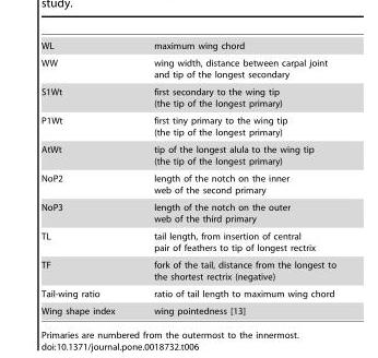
<table><tbody><tr><td>WL</td><td>maximum wing chord</td></tr><tr><td>WW</td><td>wing width, distance between carpal joint and tip of the longest secondary</td></tr><tr><td>S1Wt</td><td>first secondary to the wing tip (the tip of the longest primary)</td></tr><tr><td>P1Wt</td><td>first tiny primary to the wing tip (the tip of the longest primary)</td></tr><tr><td>AtWt</td><td>tip of the longest alula to the wing tip (the tip of the longest primary)</td></tr><tr><td>NoP2</td><td>length of the notch on the inner web of the second primary</td></tr><tr><td>NoP3</td><td>length of the notch on the outer web of the third primary</td></tr><tr><td>TL</td><td>tail length, from insertion of central pair of feathers to tip of longest rectrix</td></tr><tr><td>TF</td><td>fork of the tail, distance from the longest to the shortest rectrix (negative)</td></tr><tr><td>Tail-wing ratio</td><td>ratio of tail length to maximum wing chord</td></tr><tr><td>Wing shape index</td><td>wing pointedness [13]</td></tr></tbody></table>